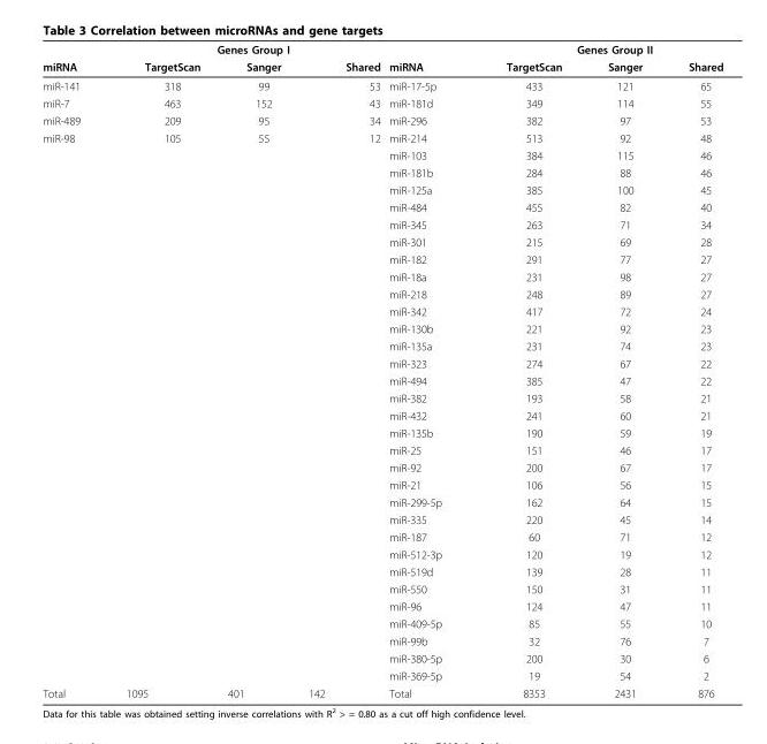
<table><thead><tr><td rowspan="2">miRNA</td><td colspan="3">Genes Group I</td><td rowspan="2">miRNA</td><td colspan="3">Genes Group II</td></tr><tr><td>TargetScan</td><td>Sanger</td><td>Shared</td><td>TargetScan</td><td>Sanger</td><td>Shared</td></tr></thead><tbody><tr><td>miR-141</td><td>318</td><td>99</td><td>53</td><td>miR-17-5p</td><td>433</td><td>121</td><td>65</td></tr><tr><td>miR-7</td><td>463</td><td>152</td><td>43</td><td>miR-181d</td><td>349</td><td>114</td><td>55</td></tr><tr><td>miR-489</td><td>209</td><td>95</td><td>34</td><td>miR-296</td><td>382</td><td>97</td><td>53</td></tr><tr><td rowspan="32">miR-98</td><td>105</td><td>55</td><td>12</td><td>miR-214</td><td>513</td><td>92</td><td>48</td></tr><tr><td></td><td></td><td></td><td>miR-103</td><td>384</td><td>115</td><td>46</td></tr><tr><td></td><td></td><td></td><td>miR-181b</td><td>284</td><td>88</td><td>46</td></tr><tr><td></td><td></td><td></td><td>miR-125a</td><td>385</td><td>100</td><td>45</td></tr><tr><td></td><td></td><td></td><td>miR-484</td><td>455</td><td>82</td><td>40</td></tr><tr><td></td><td></td><td></td><td>miR-345</td><td>263</td><td>71</td><td>34</td></tr><tr><td></td><td></td><td></td><td>miR-301</td><td>215</td><td>69</td><td>28</td></tr><tr><td></td><td></td><td></td><td>miR-182</td><td>291</td><td>77</td><td>27</td></tr><tr><td></td><td></td><td></td><td>miR-18a</td><td>231</td><td>98</td><td>27</td></tr><tr><td></td><td></td><td></td><td>miR-218</td><td>248</td><td>89</td><td>27</td></tr><tr><td></td><td></td><td></td><td>miR-342</td><td>417</td><td>72</td><td>24</td></tr><tr><td></td><td></td><td></td><td>miR-130b</td><td>221</td><td>92</td><td>23</td></tr><tr><td></td><td></td><td></td><td>miR-135a</td><td>231</td><td>74</td><td>23</td></tr><tr><td></td><td></td><td></td><td>miR-323</td><td>274</td><td>67</td><td>22</td></tr><tr><td></td><td></td><td></td><td>miR-494</td><td>385</td><td>47</td><td>22</td></tr><tr><td></td><td></td><td></td><td>miR-382</td><td>193</td><td>58</td><td>21</td></tr><tr><td></td><td></td><td></td><td>miR-432</td><td>241</td><td>60</td><td>21</td></tr><tr><td></td><td></td><td></td><td>miR-135b</td><td>190</td><td>59</td><td>19</td></tr><tr><td></td><td></td><td></td><td>miR-25</td><td>151</td><td>46</td><td>17</td></tr><tr><td></td><td></td><td></td><td>miR-92</td><td>200</td><td>67</td><td>17</td></tr><tr><td></td><td></td><td></td><td>miR-21</td><td>106</td><td>56</td><td>15</td></tr><tr><td></td><td></td><td></td><td>miR-299-5p</td><td>162</td><td>64</td><td>15</td></tr><tr><td></td><td></td><td></td><td>miR-335</td><td>220</td><td>45</td><td>14</td></tr><tr><td></td><td></td><td></td><td>miR-187</td><td>60</td><td>71</td><td>12</td></tr><tr><td></td><td></td><td></td><td>miR-512-3p</td><td>120</td><td>19</td><td>12</td></tr><tr><td></td><td></td><td></td><td>miR-519d</td><td>139</td><td>28</td><td>11</td></tr><tr><td></td><td></td><td></td><td>miR-550</td><td>150</td><td>31</td><td>11</td></tr><tr><td></td><td></td><td></td><td>miR-96</td><td>124</td><td>47</td><td>11</td></tr><tr><td></td><td></td><td></td><td>miR-409-5p</td><td>85</td><td>55</td><td>10</td></tr><tr><td></td><td></td><td></td><td>miR-99b</td><td>32</td><td>76</td><td>7</td></tr><tr><td></td><td></td><td></td><td>miR-380-5p</td><td>200</td><td>30</td><td>6</td></tr><tr><td></td><td></td><td></td><td>miR-369-5p</td><td>19</td><td>54</td><td>2</td></tr><tr><td>Total</td><td>1095</td><td>401</td><td>142</td><td>Total</td><td>8353</td><td>2431</td><td>876</td></tr></tbody></table>